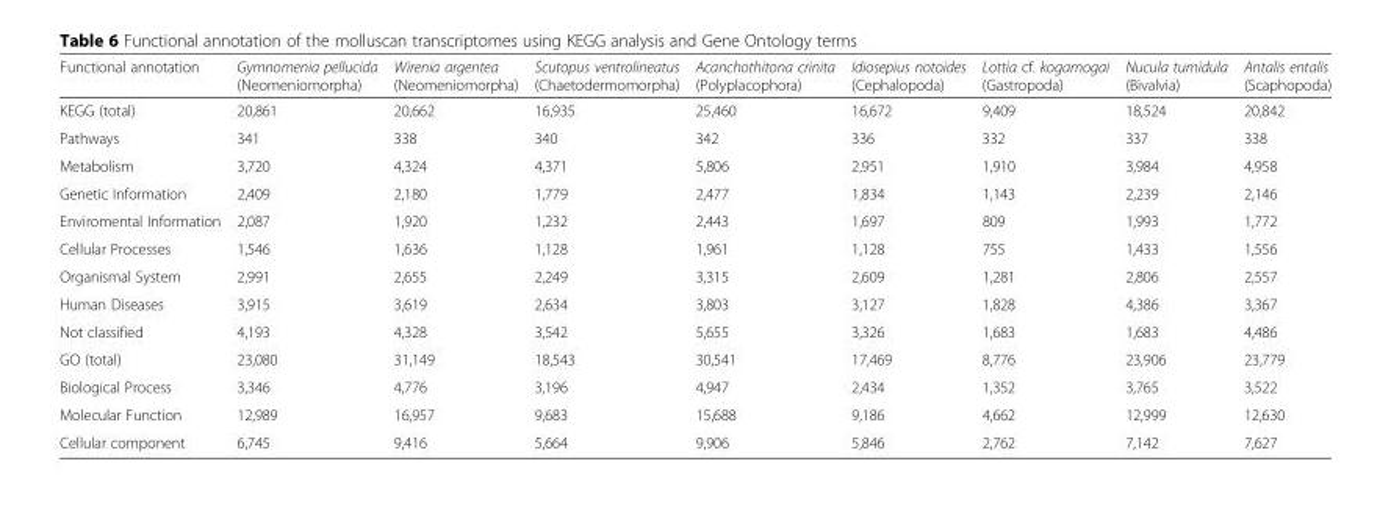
<table><thead><tr><td>Functional annotation</td><td>Gymnomenia pellucida (Neomeniomorpha)</td><td>Wirenia argentea (Neomeniomorpha)</td><td>Scutopus ventrolineatus (Chaetodermomorpha)</td><td>Acanchothitona crinita (Polyplacophora)</td><td>Idiosepius notoides (Cephalopoda)</td><td>Lottia cf. kogamogai (Gastropoda)</td><td>Nucula tumidula (Bivalvia)</td><td>Antalis entalis (Scaphopoda)</td></tr></thead><tbody><tr><td>KEGG (total)</td><td>20,861</td><td>20,662</td><td>16,935</td><td>25,460</td><td>16,672</td><td>9,409</td><td>18,524</td><td>20,842</td></tr><tr><td>Pathways</td><td>341</td><td>338</td><td>340</td><td>342</td><td>336</td><td>332</td><td>337</td><td>338</td></tr><tr><td>Metabolism</td><td>3,720</td><td>4,324</td><td>4,371</td><td>5,806</td><td>2,951</td><td>1,910</td><td>3,984</td><td>4,958</td></tr><tr><td>Genetic Information</td><td>2,409</td><td>2,180</td><td>1,779</td><td>2,477</td><td>1,834</td><td>1,143</td><td>2,239</td><td>2,146</td></tr><tr><td>Enviromental Information</td><td>2,087</td><td>1,920</td><td>1,232</td><td>2,443</td><td>1,697</td><td>809</td><td>1,993</td><td>1,772</td></tr><tr><td>Cellular Processes</td><td>1,546</td><td>1,636</td><td>1,128</td><td>1,961</td><td>1,128</td><td>755</td><td>1,433</td><td>1,556</td></tr><tr><td>Organismal System</td><td>2,991</td><td>2,655</td><td>2,249</td><td>3,315</td><td>2,609</td><td>1,281</td><td>2,806</td><td>2,557</td></tr><tr><td>Human Diseases</td><td>3,915</td><td>3,619</td><td>2,634</td><td>3,803</td><td>3,127</td><td>1,828</td><td>4,386</td><td>3,367</td></tr><tr><td>Not classified</td><td>4,193</td><td>4,328</td><td>3,542</td><td>5,655</td><td>3,326</td><td>1,683</td><td>1,683</td><td>4,486</td></tr><tr><td>GO (total)</td><td>23,080</td><td>31,149</td><td>18,543</td><td>30,541</td><td>17,469</td><td>8,776</td><td>23,906</td><td>23,779</td></tr><tr><td>Biological Process</td><td>3,346</td><td>4,776</td><td>3,196</td><td>4,947</td><td>2,434</td><td>1,352</td><td>3,765</td><td>3,522</td></tr><tr><td>Molecular Function</td><td>12,989</td><td>16,957</td><td>9,683</td><td>15,688</td><td>9,186</td><td>4,662</td><td>12,999</td><td>12,630</td></tr><tr><td>Cellular component</td><td>6,745</td><td>9,416</td><td>5,664</td><td>9,906</td><td>5,846</td><td>2,762</td><td>7,142</td><td>7,627</td></tr></tbody></table>